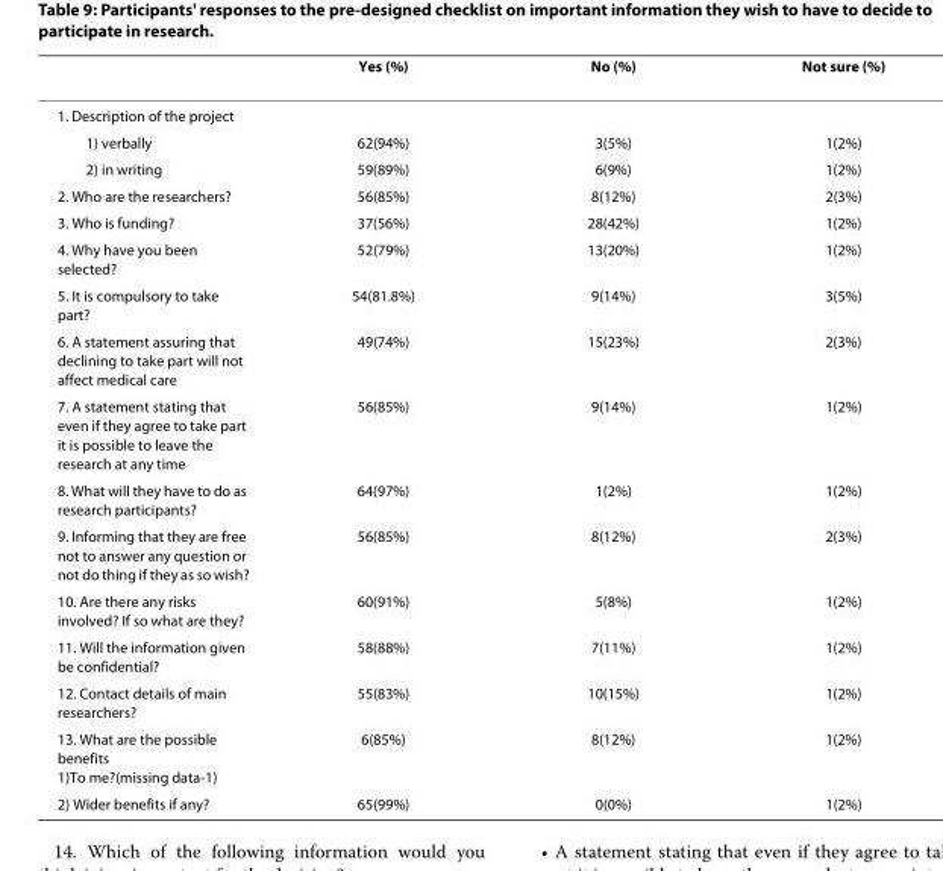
<table><thead><tr><td></td><td>Yes (%)</td><td>No (%)</td><td>Not sure (%)</td></tr></thead><tbody><tr><td colspan="4">1. Description of the project</td></tr><tr><td>1) verbally</td><td>62(94%)</td><td>3(5%)</td><td>1(2%)</td></tr><tr><td>2) in writing</td><td>59(89%)</td><td>6(9%)</td><td>1(2%)</td></tr><tr><td>2. Who are the researchers?</td><td>56(85%)</td><td>8(12%)</td><td>2(3%)</td></tr><tr><td>3. Who is funding?</td><td>37(56%)</td><td>28(42%)</td><td>1(2%)</td></tr><tr><td>4. Why have you been selected?</td><td>52(79%)</td><td>13(20%)</td><td>1(2%)</td></tr><tr><td>5. It is compulsory to take part?</td><td>54(81.8%)</td><td>9(14%)</td><td>3(5%)</td></tr><tr><td>6. A statement assuring that declining to take part will not affect medical care</td><td>49(74%)</td><td>15(23%)</td><td>2(3%)</td></tr><tr><td>7. A statement stating that even if they agree to take part it is possible to leave the research at any time</td><td>56(85%)</td><td>9(14%)</td><td>1(2%)</td></tr><tr><td>8. What will they have to do as research participants?</td><td>64(97%)</td><td>1(2%)</td><td>1(2%)</td></tr><tr><td>9. Informing that they are free not to answer any question or not do thing if they as so wish?</td><td>56(85%)</td><td>8(12%)</td><td>2(3%)</td></tr><tr><td>10. Are there any risks involved? If so what are they?</td><td>60(91%)</td><td>5(8%)</td><td>1(2%)</td></tr><tr><td>11. Will the information given be confidential?</td><td>58(88%)</td><td>7(11%)</td><td>1(2%)</td></tr><tr><td>12. Contact details of main researchers?</td><td>55(83%)</td><td>10(15%)</td><td>1(2%)</td></tr><tr><td>13. What are the possible benefits 1)To me?(missing data-1)</td><td>6(85%)</td><td>8(12%)</td><td>1(2%)</td></tr><tr><td>2) Wider benefits if any?</td><td>65(99%)</td><td>0(0%)</td><td>1(2%)</td></tr></tbody></table>